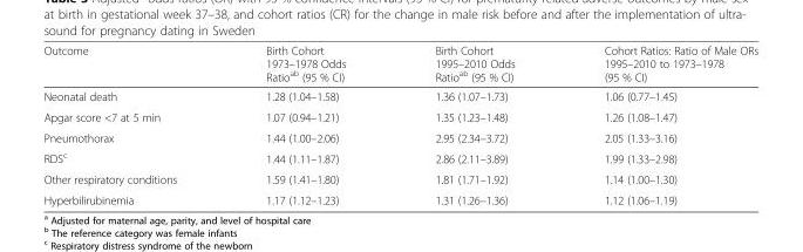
<table><thead><tr><td>Outcome</td><td>Birth Cohort 1973–1978 Odds Ratio<sup>ab</sup> (95 % CI)</td><td>Birth Cohort 1995–2010 Odds Ratio<sup>ab</sup> (95 % CI)</td><td>Cohort Ratios: Ratio of Male ORs 1995–2010 to 1973–1978 (95 % CI)</td></tr></thead><tbody><tr><td>Neonatal death</td><td>1.28 (1.04–1.58)</td><td>1.36 (1.07–1.73)</td><td>1.06 (0.77–1.45)</td></tr><tr><td>Apgar score &lt;7 at 5 min</td><td>1.07 (0.94–1.21)</td><td>1.35 (1.23–1.48)</td><td>1.26 (1.08–1.47)</td></tr><tr><td>Pneumothorax</td><td>1.44 (1.00–2.06)</td><td>2.95 (2.34–3.72)</td><td>2.05 (1.33–3.16)</td></tr><tr><td>RDS<sup>c</sup></td><td>1.44 (1.11–1.87)</td><td>2.86 (2.11–3.89)</td><td>1.99 (1.33–2.98)</td></tr><tr><td>Other respiratory conditions</td><td>1.59 (1.41–1.80)</td><td>1.81 (1.71–1.92)</td><td>1.14 (1.00–1.30)</td></tr><tr><td>Hyperbilirubinemia</td><td>1.17 (1.12–1.23)</td><td>1.31 (1.26–1.36)</td><td>1.12 (1.06–1.19)</td></tr></tbody></table>